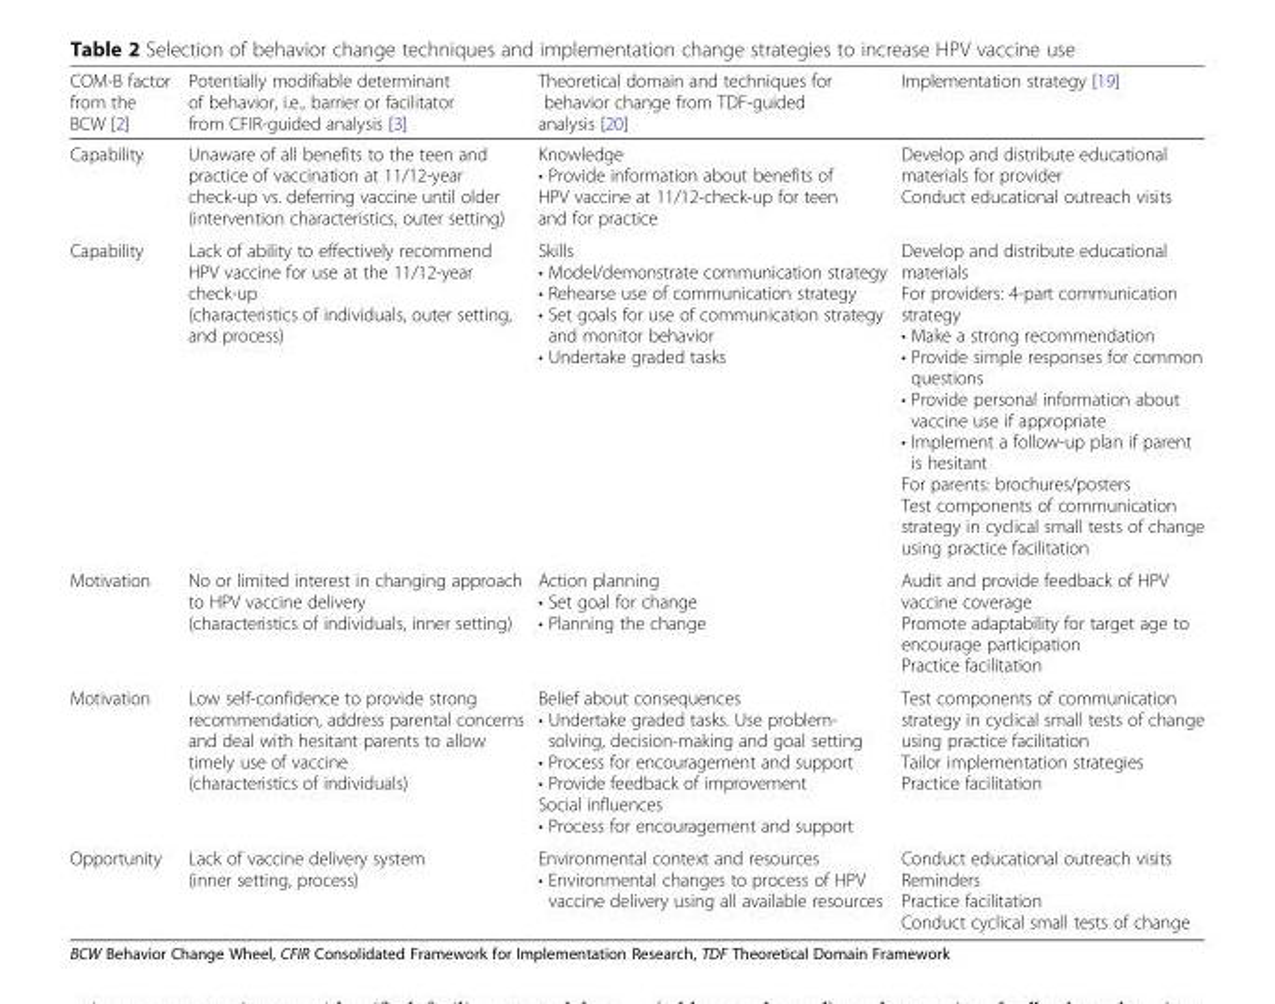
<table><thead><tr><td>COM-B factor from the BCW [2]</td><td>Potentially modifiable determinant of behavior, i.e., barrier or facilitator from CFIR-guided analysis [3]</td><td>Theoretical domain and techniques for behavior change from TDF-guided analysis [20]</td><td>Implementation strategy [19]</td></tr></thead><tbody><tr><td>Capability</td><td>Unaware of all benefits to the teen and practice of vaccination at 11/12-year check-up vs. deferring vaccine until older (intervention characteristics, outer setting)</td><td>Knowledge • Provide information about benefits of HPV vaccine at 11/12-check-up for teen and for practice</td><td>Develop and distribute educational materials for provider Conduct educational outreach visits</td></tr><tr><td>Capability</td><td>Lack of ability to effectively recommend HPV vaccine for use at the 11/12-year check-up (characteristics of individuals, outer setting, and process)</td><td>Skills • Model/demonstrate communication strategy • Rehearse use of communication strategy • Set goals for use of communication strategy and monitor behavior • Undertake graded tasks</td><td>Develop and distribute educational materials For providers: 4-part communication strategy • Make a strong recommendation • Provide simple responses for common questions • Provide personal information about vaccine use if appropriate • Implement a follow-up plan if parent is hesitant For parents: brochures/posters Test components of communication strategy in cyclical small tests of change using practice facilitation</td></tr><tr><td>Motivation</td><td>No or limited interest in changing approach to HPV vaccine delivery (characteristics of individuals, inner setting)</td><td>Action planning • Set goal for change • Planning the change</td><td>Audit and provide feedback of HPV vaccine coverage Promote adaptability for target age to encourage participation Practice facilitation</td></tr><tr><td>Motivation</td><td>Low self-confidence to provide strong recommendation, address parental concerns and deal with hesitant parents to allow timely use of vaccine (characteristics of individuals)</td><td>Belief about consequences • Undertake graded tasks. Use problem- solving, decision-making and goal setting • Process for encouragement and support • Provide feedback of improvement Social influences • Process for encouragement and support</td><td>Test components of communication strategy in cyclical small tests of change using practice facilitation Tailor implementation strategies Practice facilitation</td></tr><tr><td>Opportunity</td><td>Lack of vaccine delivery system (inner setting, process)</td><td>Environmental context and resources • Environmental changes to process of HPV vaccine delivery using all available resources</td><td>Conduct educational outreach visits Reminders Practice facilitation Conduct cyclical small tests of change</td></tr></tbody></table>